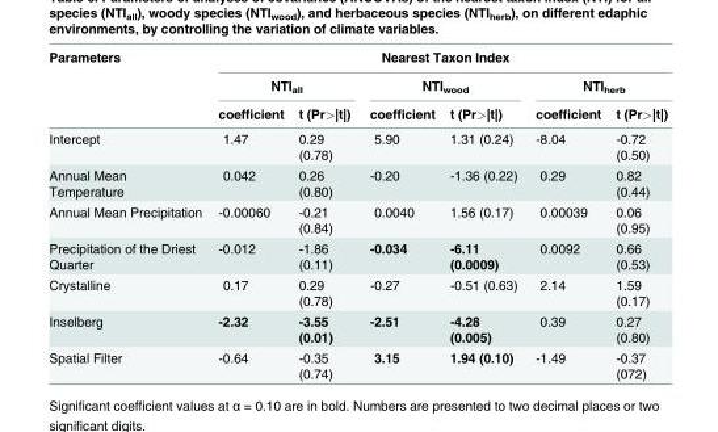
<table><thead><tr><td rowspan="3">Parameters</td><td colspan="6">Nearest Taxon Index</td></tr><tr><td colspan="2">NTI<sub>all</sub></td><td colspan="2">NTI<sub>wood</sub></td><td colspan="2">NTI<sub>herb</sub></td></tr><tr><td>coefficient</td><td>t (Pr&gt;|t|)</td><td>coefficient</td><td>t (Pr&gt;|t|)</td><td>coefficient</td><td>t (Pr&gt;|t|)</td></tr></thead><tbody><tr><td>Intercept</td><td>1.47</td><td>0.29 (0.78)</td><td>5.90</td><td>1.31 (0.24)</td><td>-8.04</td><td>-0.72 (0.50)</td></tr><tr><td>Annual Mean Temperature</td><td>0.042</td><td>0.26 (0.80)</td><td>-0.20</td><td>-1.36 (0.22)</td><td>0.29</td><td>0.82 (0.44)</td></tr><tr><td>Annual Mean Precipitation</td><td>-0.00060</td><td>-0.21 (0.84)</td><td>0.0040</td><td>1.56 (0.17)</td><td>0.00039</td><td>0.06 (0.95)</td></tr><tr><td>Precipitation of the Driest Quarter</td><td>-0.012</td><td>-1.86 (0.11)</td><td>-0.034</td><td>-6.11 (0.0009)</td><td>0.0092</td><td>0.66 (0.53)</td></tr><tr><td>Crystalline</td><td>0.17</td><td>0.29 (0.78)</td><td>-0.27</td><td>-0.51 (0.63)</td><td>2.14</td><td>1.59 (0.17)</td></tr><tr><td>Inselberg</td><td>-2.32</td><td>-3.55 (0.01)</td><td>-2.51</td><td>-4.28 (0.005)</td><td>0.39</td><td>0.27 (0.80)</td></tr><tr><td>Spatial Filter</td><td>-0.64</td><td>-0.35 (0.74)</td><td>3.15</td><td>1.94 (0.10)</td><td>-1.49</td><td>-0.37 (072)</td></tr></tbody></table>